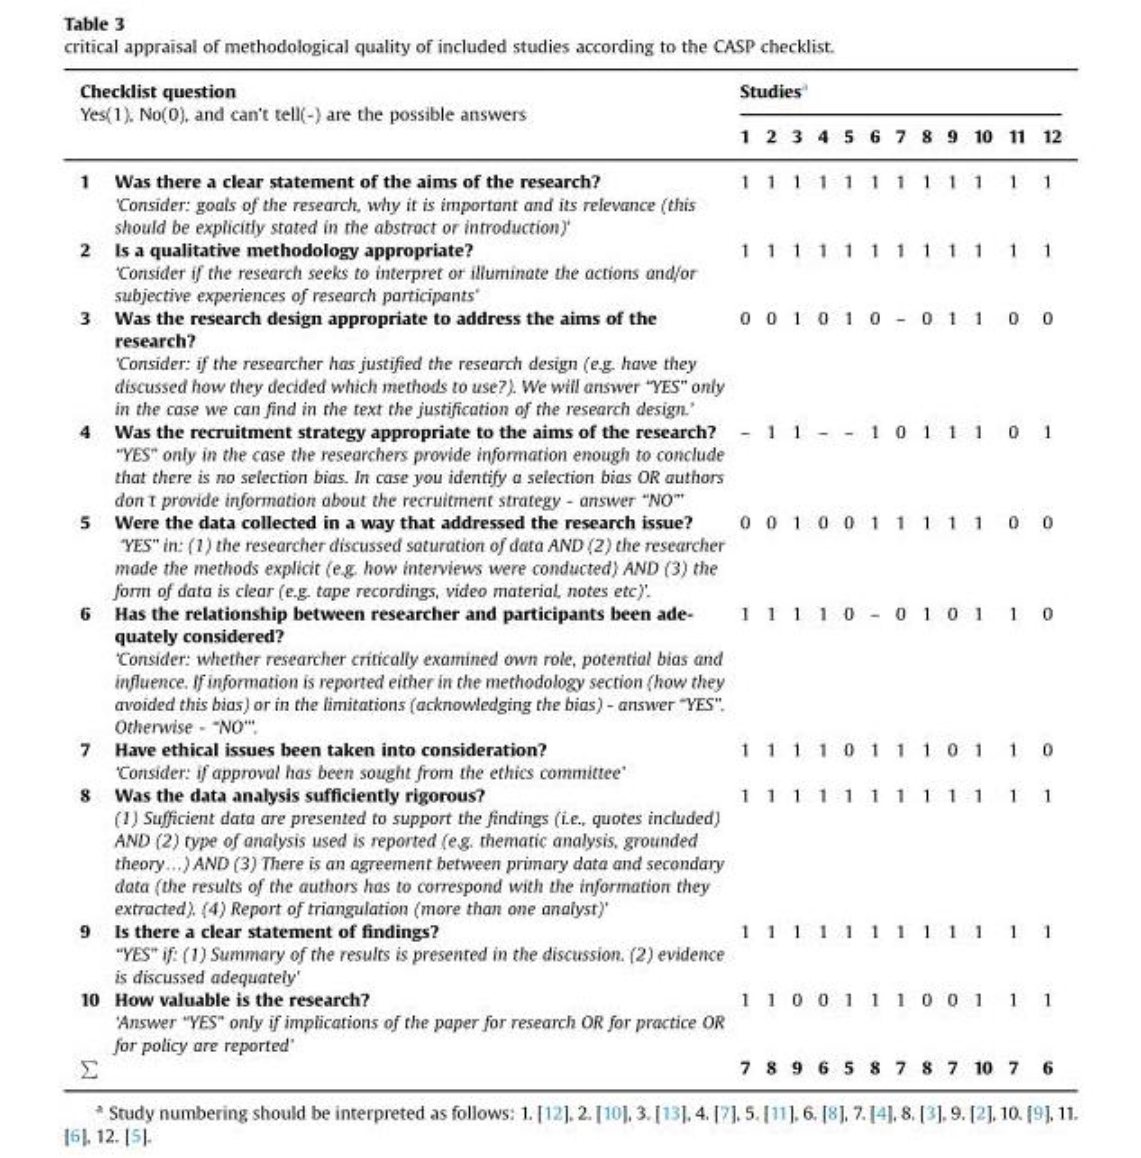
<table><thead><tr><td rowspan="2" colspan="2">Checklist question Yes(1), No(0), and can’t tell(-) are the possible answers</td><td colspan="12">Studiesa</td></tr><tr><td rowspan="2">1 1</td><td rowspan="2">2 1</td><td rowspan="2">3 1</td><td rowspan="2">4 1</td><td rowspan="2">5 1</td><td rowspan="2">6 1</td><td rowspan="2">7 1</td><td rowspan="2">8 1</td><td rowspan="2">9 1</td><td rowspan="2">10 1</td><td rowspan="2">11 1</td><td rowspan="2">12 1</td></tr><tr><td>1</td><td>Was there a clear statement of the aims of the research? ‘Consider: goals of the research, why it is important and its relevance (this should be explicitly stated in the abstract or introduction)’</td></tr></thead><tbody><tr><td>2</td><td>Is a qualitative methodology appropriate? ‘Consider if the research seeks to interpret or illuminate the actions and/or subjective experiences of research participants’</td><td>1</td><td>1</td><td>1</td><td>1</td><td>1</td><td>1</td><td>1</td><td>1</td><td>1</td><td>1</td><td>1</td><td>1</td></tr><tr><td>3</td><td>Was the research design appropriate to address the aims of the research? ‘Consider: if the researcher has justified the research design (e.g. have they discussed how they decided which methods to use?). We will answer “YES” only in the case we can find in the text the justification of the research design.’</td><td>0</td><td>0</td><td>1</td><td>0</td><td>1</td><td>0</td><td>–</td><td>0</td><td>1</td><td>1</td><td>0</td><td>0</td></tr><tr><td>4</td><td>Was the recruitment strategy appropriate to the aims of the research? “YES” only in the case the researchers provide information enough to conclude that there is no selection bias. In case you identify a selection bias OR authors don´t provide information about the recruitment strategy - answer “NO”’</td><td>–</td><td>1</td><td>1</td><td>–</td><td>–</td><td>1</td><td>0</td><td>1</td><td>1</td><td>1</td><td>0</td><td>1</td></tr><tr><td>5</td><td>Were the data collected in a way that addressed the research issue? ‘YES” in: (1) the researcher discussed saturation of data AND (2) the researcher made the methods explicit (e.g. how interviews were conducted) AND (3) the form of data is clear (e.g. tape recordings, video material, notes etc)’.</td><td>0</td><td>0</td><td>1</td><td>0</td><td>0</td><td>1</td><td>1</td><td>1</td><td>1</td><td>1</td><td>0</td><td>0</td></tr><tr><td>6</td><td>Has the relationship between researcher and participants been ade- quately considered? ‘Consider: whether researcher critically examined own role, potential bias and influence. If information is reported either in the methodology section (how they avoided this bias) or in the limitations (acknowledging the bias) - answer “YES”. Otherwise - “NO’”.</td><td>1</td><td>1</td><td>1</td><td>1</td><td>0</td><td>–</td><td>0</td><td>1</td><td>0</td><td>1</td><td>1</td><td>0</td></tr><tr><td>7</td><td>Have ethical issues been taken into consideration? ‘Consider: if approval has been sought from the ethics committee’</td><td>1</td><td>1</td><td>1</td><td>1</td><td>0</td><td>1</td><td>1</td><td>1</td><td>0</td><td>1</td><td>1</td><td>0</td></tr><tr><td>8</td><td>Was the data analysis sufficiently rigorous? (1) Sufficient data are presented to support the findings (i.e., quotes included) AND (2) type of analysis used is reported (e.g. thematic analysis, grounded theory…) AND (3) There is an agreement between primary data and secondary data (the results of the authors has to correspond with the information they extracted). (4) Report of triangulation (more than one analyst)’</td><td>1</td><td>1</td><td>1</td><td>1</td><td>1</td><td>1</td><td>1</td><td>1</td><td>1</td><td>1</td><td>1</td><td>1</td></tr><tr><td>9</td><td>Is there a clear statement of findings? “YES” if: (1) Summary of the results is presented in the discussion. (2) evidence is discussed adequately’</td><td>1</td><td>1</td><td>1</td><td>1</td><td>1</td><td>1</td><td>1</td><td>1</td><td>1</td><td>1</td><td>1</td><td>1</td></tr><tr><td>10</td><td>How valuable is the research? ‘Answer “YES” only if implications of the paper for research OR for practice OR for policy are reported’</td><td>1</td><td>1</td><td>0</td><td>0</td><td>1</td><td>1</td><td>1</td><td>0</td><td>0</td><td>1</td><td>1</td><td>1</td></tr><tr><td colspan="2"></td><td>7</td><td>8</td><td>9</td><td>6</td><td>5</td><td>8</td><td>7</td><td>8</td><td>7</td><td>10</td><td>7</td><td>6</td></tr></tbody></table>